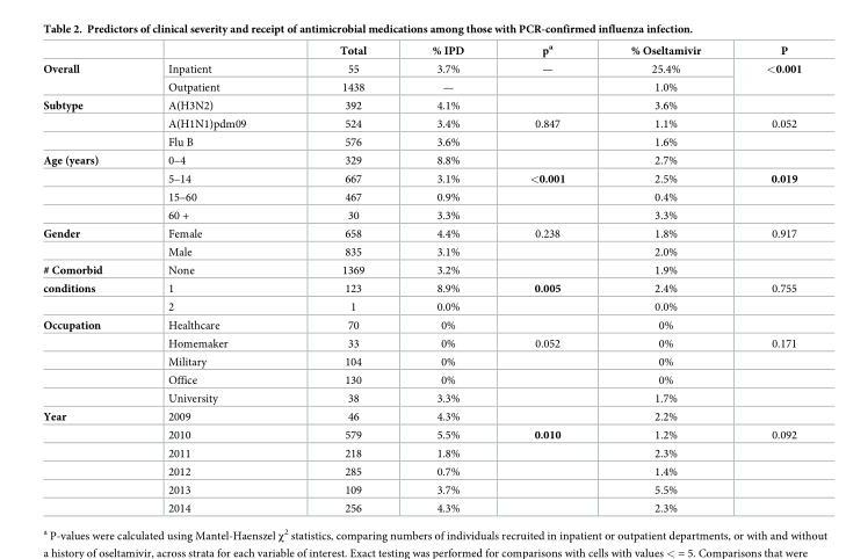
<table><thead><tr><td></td><td></td><td>Total</td><td>% IPD</td><td>p<sup>a</sup></td><td>% Oseltamivir</td><td>P</td></tr></thead><tbody><tr><td rowspan="2">Overall</td><td>Inpatient</td><td>55</td><td>3.7%</td><td>—</td><td>25.4%</td><td rowspan="2">&lt;0.001</td></tr><tr><td>Outpatient</td><td>1438</td><td>—</td><td></td><td>1.0%</td></tr><tr><td rowspan="3">Subtype</td><td>A(H3N2)</td><td>392</td><td>4.1%</td><td></td><td>3.6%</td><td></td></tr><tr><td>A(H1N1)pdm09</td><td>524</td><td>3.4%</td><td>0.847</td><td>1.1%</td><td>0.052</td></tr><tr><td>Flu B</td><td>576</td><td>3.6%</td><td></td><td>1.6%</td><td></td></tr><tr><td rowspan="4">Age (years)</td><td>0–4</td><td>329</td><td>8.8%</td><td></td><td>2.7%</td><td></td></tr><tr><td>5–14</td><td>667</td><td>3.1%</td><td>&lt;0.001</td><td>2.5%</td><td>0.019</td></tr><tr><td>15–60</td><td>467</td><td>0.9%</td><td></td><td>0.4%</td><td></td></tr><tr><td>60 +</td><td>30</td><td>3.3%</td><td></td><td>3.3%</td><td></td></tr><tr><td rowspan="2">Gender</td><td>Female</td><td>658</td><td>4.4%</td><td>0.238</td><td>1.8%</td><td>0.917</td></tr><tr><td>Male</td><td>835</td><td>3.1%</td><td></td><td>2.0%</td><td></td></tr><tr><td># Comorbid</td><td>None</td><td>1369</td><td>3.2%</td><td></td><td>1.9%</td><td></td></tr><tr><td rowspan="2">conditions</td><td>1</td><td>123</td><td>8.9%</td><td>0.005</td><td>2.4%</td><td>0.755</td></tr><tr><td>2</td><td>1</td><td>0.0%</td><td></td><td>0.0%</td><td></td></tr><tr><td rowspan="5">Occupation</td><td>Healthcare</td><td>70</td><td>0%</td><td></td><td>0%</td><td></td></tr><tr><td>Homemaker</td><td>33</td><td>0%</td><td>0.052</td><td>0%</td><td>0.171</td></tr><tr><td>Military</td><td>104</td><td>0%</td><td></td><td>0%</td><td></td></tr><tr><td>Office</td><td>130</td><td>0%</td><td></td><td>0%</td><td></td></tr><tr><td>University</td><td>38</td><td>3.3%</td><td></td><td>1.7%</td><td></td></tr><tr><td rowspan="6">Year</td><td>2009</td><td>46</td><td>4.3%</td><td></td><td>2.2%</td><td></td></tr><tr><td>2010</td><td>579</td><td>5.5%</td><td>0.010</td><td>1.2%</td><td>0.092</td></tr><tr><td>2011</td><td>218</td><td>1.8%</td><td></td><td>2.3%</td><td></td></tr><tr><td>2012</td><td>285</td><td>0.7%</td><td></td><td>1.4%</td><td></td></tr><tr><td>2013</td><td>109</td><td>3.7%</td><td></td><td>5.5%</td><td></td></tr><tr><td>2014</td><td>256</td><td>4.3%</td><td></td><td>2.3%</td><td></td></tr></tbody></table>